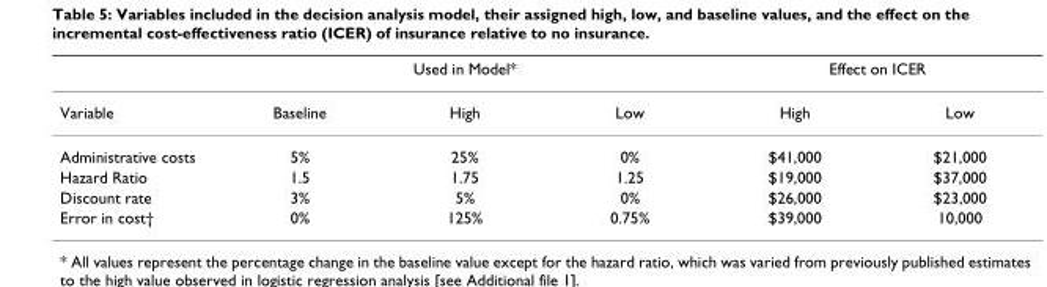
<table><thead><tr><td rowspan="2">Variable</td><td colspan="3">Used in Model*</td><td colspan="2">Effect on ICER</td></tr><tr><td>Baseline</td><td>High</td><td>Low</td><td>High</td><td>Low</td></tr></thead><tbody><tr><td>Administrative costs</td><td>5%</td><td>25%</td><td>0%</td><td>$41,000</td><td>$21,000</td></tr><tr><td>Hazard Ratio</td><td>1.5</td><td>1.75</td><td>1.25</td><td>$19,000</td><td>$37,000</td></tr><tr><td>Discount rate</td><td>3%</td><td>5%</td><td>0%</td><td>$26,000</td><td>$23,000</td></tr><tr><td>Error in cost†</td><td>0%</td><td>125%</td><td>0.75%</td><td>$39,000</td><td>10,000</td></tr></tbody></table>